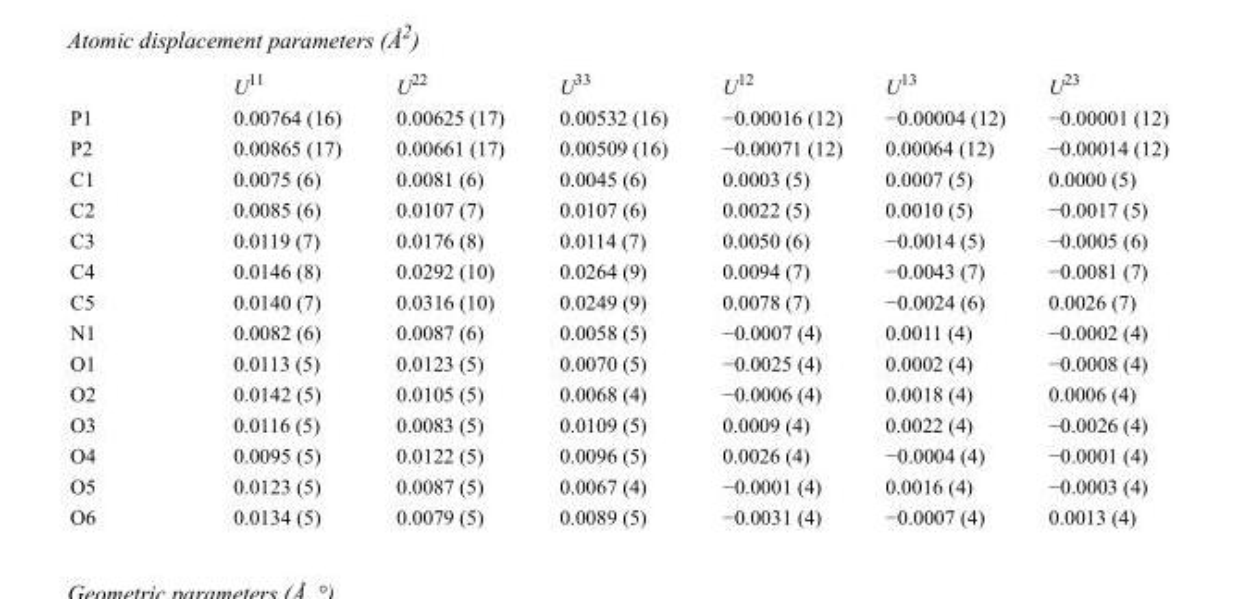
<table><thead><tr><td></td><td>U<sup>11</sup></td><td>U<sup>22</sup></td><td>U<sup>33</sup></td><td>U<sup>12</sup></td><td>U<sup>13</sup></td><td>U<sup>23</sup></td></tr></thead><tbody><tr><td>P1</td><td>0.00764 (16)</td><td>0.00625 (17)</td><td>0.00532 (16)</td><td>−0.00016 (12)</td><td>−0.00004 (12)</td><td>−0.00001 (12)</td></tr><tr><td>P2</td><td>0.00865 (17)</td><td>0.00661 (17)</td><td>0.00509 (16)</td><td>−0.00071 (12)</td><td>0.00064 (12)</td><td>−0.00014 (12)</td></tr><tr><td>C1</td><td>0.0075 (6)</td><td>0.0081 (6)</td><td>0.0045 (6)</td><td>0.0003 (5)</td><td>0.0007 (5)</td><td>0.0000 (5)</td></tr><tr><td>C2</td><td>0.0085 (6)</td><td>0.0107 (7)</td><td>0.0107 (6)</td><td>0.0022 (5)</td><td>0.0010 (5)</td><td>−0.0017 (5)</td></tr><tr><td>C3</td><td>0.0119 (7)</td><td>0.0176 (8)</td><td>0.0114 (7)</td><td>0.0050 (6)</td><td>−0.0014 (5)</td><td>−0.0005 (6)</td></tr><tr><td>C4</td><td>0.0146 (8)</td><td>0.0292 (10)</td><td>0.0264 (9)</td><td>0.0094 (7)</td><td>−0.0043 (7)</td><td>−0.0081 (7)</td></tr><tr><td>C5</td><td>0.0140 (7)</td><td>0.0316 (10)</td><td>0.0249 (9)</td><td>0.0078 (7)</td><td>−0.0024 (6)</td><td>0.0026 (7)</td></tr><tr><td>N1</td><td>0.0082 (6)</td><td>0.0087 (6)</td><td>0.0058 (5)</td><td>−0.0007 (4)</td><td>0.0011 (4)</td><td>−0.0002 (4)</td></tr><tr><td>O1</td><td>0.0113 (5)</td><td>0.0123 (5)</td><td>0.0070 (5)</td><td>−0.0025 (4)</td><td>0.0002 (4)</td><td>−0.0008 (4)</td></tr><tr><td>O2</td><td>0.0142 (5)</td><td>0.0105 (5)</td><td>0.0068 (4)</td><td>−0.0006 (4)</td><td>0.0018 (4)</td><td>0.0006 (4)</td></tr><tr><td>O3</td><td>0.0116 (5)</td><td>0.0083 (5)</td><td>0.0109 (5)</td><td>0.0009 (4)</td><td>0.0022 (4)</td><td>−0.0026 (4)</td></tr><tr><td>O4</td><td>0.0095 (5)</td><td>0.0122 (5)</td><td>0.0096 (5)</td><td>0.0026 (4)</td><td>−0.0004 (4)</td><td>−0.0001 (4)</td></tr><tr><td>O5</td><td>0.0123 (5)</td><td>0.0087 (5)</td><td>0.0067 (4)</td><td>−0.0001 (4)</td><td>0.0016 (4)</td><td>−0.0003 (4)</td></tr><tr><td>O6</td><td>0.0134 (5)</td><td>0.0079 (5)</td><td>0.0089 (5)</td><td>−0.0031 (4)</td><td>−0.0007 (4)</td><td>0.0013 (4)</td></tr></tbody></table>